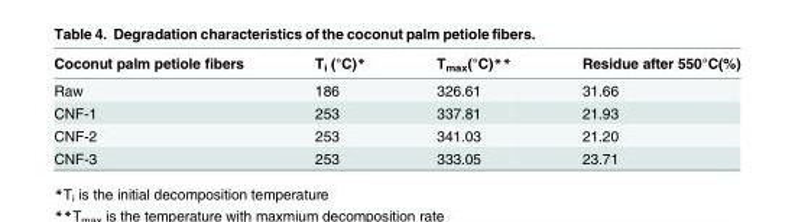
<table><thead><tr><td>Coconut palm petiole fibers</td><td>T<sub>i</sub> (°C)*</td><td>T<sub>max</sub>(°C)**</td><td>Residue after 550°C(%)</td></tr></thead><tbody><tr><td>Raw</td><td>186</td><td>326.61</td><td>31.66</td></tr><tr><td>CNF-1</td><td>253</td><td>337.81</td><td>21.93</td></tr><tr><td>CNF-2</td><td>253</td><td>341.03</td><td>21.20</td></tr><tr><td>CNF-3</td><td>253</td><td>333.05</td><td>23.71</td></tr></tbody></table>